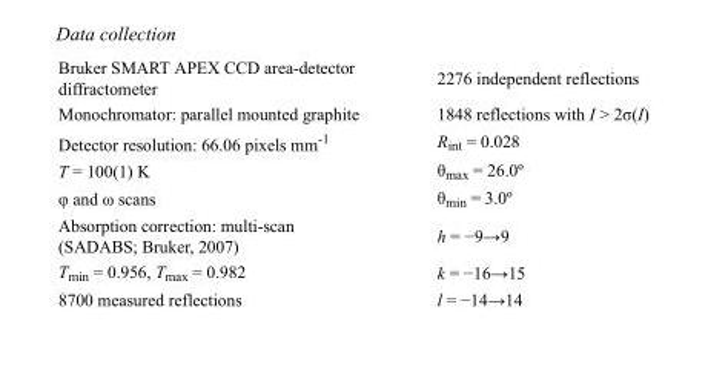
<table><tbody><tr><td>Bruker SMART APEX CCD area-detector diffractometer</td><td>2276 independent reflections</td></tr><tr><td>Monochromator: parallel mounted graphite</td><td>1848 reflections with I &gt; 2σ(I)</td></tr><tr><td>Detector resolution: 66.06 pixels mm<sup>-1</sup></td><td>R<sub>int</sub> = 0.028</td></tr><tr><td>T = 100(1) K</td><td>θ<sub>max</sub> = 26.0º</td></tr><tr><td>φ and ω scans</td><td>θ<sub>min</sub> = 3.0º</td></tr><tr><td>Absorption correction: multi-scan (SADABS; Bruker, 2007)</td><td>h = −9→9</td></tr><tr><td>T<sub>min</sub> = 0.956, T<sub>max</sub> = 0.982</td><td>k = −16→15</td></tr><tr><td>8700 measured reflections</td><td>l = −14→14</td></tr></tbody></table>